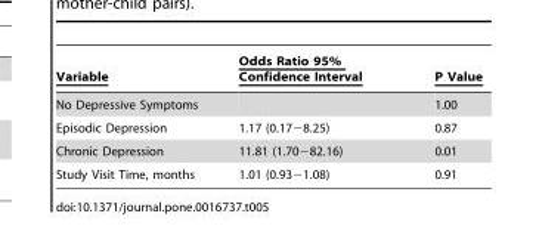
<table><thead><tr><td>Variable</td><td>Odds Ratio 95% Confidence Interval</td><td>P Value</td></tr></thead><tbody><tr><td>No Depressive Symptoms</td><td></td><td>1.00</td></tr><tr><td>Episodic Depression</td><td>1.17 (0.17−8.25)</td><td>0.87</td></tr><tr><td>Chronic Depression</td><td>11.81 (1.70−82.16)</td><td>0.01</td></tr><tr><td>Study Visit Time, months</td><td>1.01 (0.93−1.08)</td><td>0.91</td></tr></tbody></table>